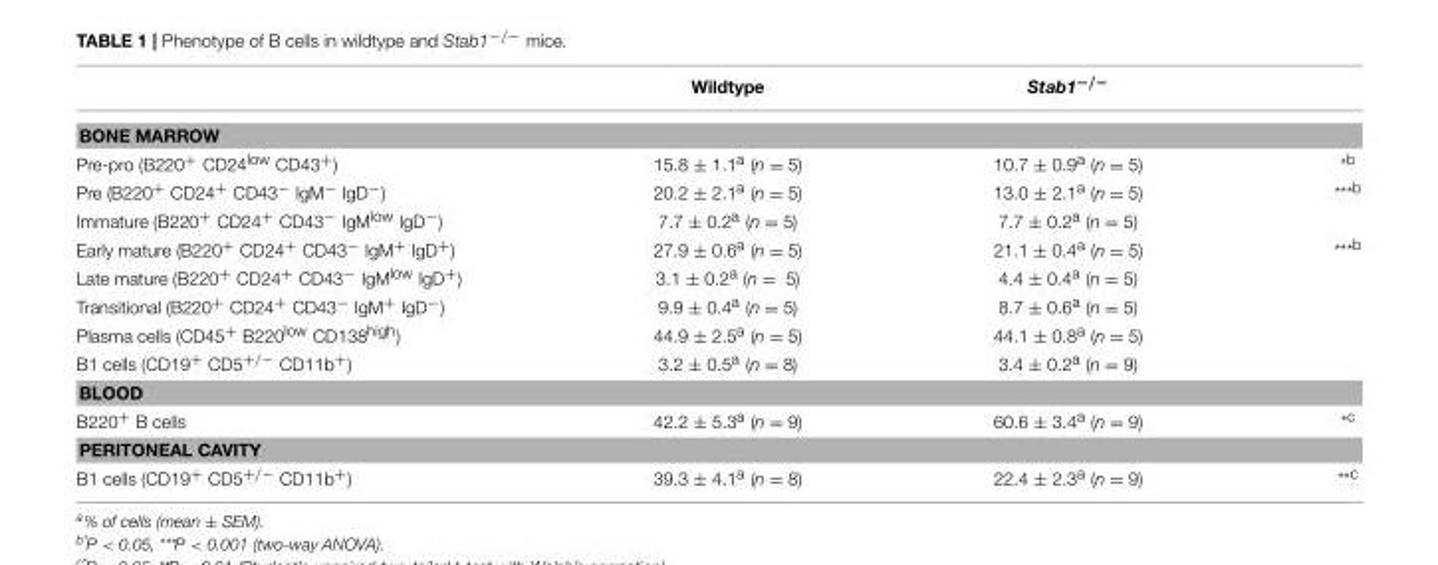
<table><thead><tr><td></td><td>Wildtype</td><td>Stab1<sup>−/−</sup></td><td></td></tr></thead><tbody><tr><td colspan="4">BONE MARROW</td></tr><tr><td>Pre-pro (B220<sup>+</sup> CD24<sup>low</sup> CD43<sup>+</sup>)</td><td>15.8 ± 1.1<sup>a</sup> (n = 5)</td><td>10.7 ± 0.9<sup>a</sup> (n = 5)</td><td><sup>*b</sup></td></tr><tr><td>Pre (B220<sup>+</sup> CD24<sup>+</sup> CD43<sup>−</sup> IgM<sup>−</sup> IgD<sup>−</sup>)</td><td>20.2 ± 2.1<sup>a</sup> (n = 5)</td><td>13.0 ± 2.1<sup>a</sup> (n = 5)</td><td><sup>***b</sup></td></tr><tr><td>Immature (B220<sup>+</sup> CD24<sup>+</sup> CD43<sup>−</sup> IgM<sup>low</sup> IgD<sup>−</sup>)</td><td>7.7 ± 0.2<sup>a</sup> (n = 5)</td><td>7.7 ± 0.2<sup>a</sup> (n = 5)</td><td></td></tr><tr><td>Early mature (B220<sup>+</sup> CD24<sup>+</sup> CD43<sup>−</sup> IgM<sup>+</sup> IgD<sup>+</sup>)</td><td>27.9 ± 0.6<sup>a</sup> (n = 5)</td><td>21.1 ± 0.4<sup>a</sup> (n = 5)</td><td><sup>***b</sup></td></tr><tr><td>Late mature (B220<sup>+</sup> CD24<sup>+</sup> CD43<sup>−</sup> IgM<sup>low</sup> IgD<sup>+</sup>)</td><td>3.1 ± 0.2<sup>a</sup> (n = 5)</td><td>4.4 ± 0.4<sup>a</sup> (n = 5)</td><td></td></tr><tr><td>Transitional (B220<sup>+</sup> CD24<sup>+</sup> CD43<sup>−</sup> IgM<sup>+</sup> IgD<sup>−</sup>)</td><td>9.9 ± 0.4<sup>a</sup> (n = 5)</td><td>8.7 ± 0.6<sup>a</sup> (n = 5)</td><td></td></tr><tr><td>Plasma cells (CD45<sup>+</sup> B220<sup>low</sup> CD138<sup>high</sup>)</td><td>44.9 ± 2.5<sup>a</sup> (n = 5)</td><td>44.1 ± 0.8<sup>a</sup> (n = 5)</td><td></td></tr><tr><td>B1 cells (CD19<sup>+</sup> CD5<sup>+/−</sup> CD11b<sup>+</sup>)</td><td>3.2 ± 0.5<sup>a</sup> (n = 8)</td><td>3.4 ± 0.2<sup>a</sup> (n = 9)</td><td></td></tr><tr><td colspan="4">BLOOD</td></tr><tr><td>B220<sup>+</sup> B cells</td><td>42.2 ± 5.3<sup>a</sup> (n = 9)</td><td>60.6 ± 3.4<sup>a</sup> (n = 9)</td><td><sup>*c</sup></td></tr><tr><td colspan="4">PERITONEAL CAVITY</td></tr><tr><td>B1 cells (CD19<sup>+</sup> CD5<sup>+/−</sup> CD11b<sup>+</sup>)</td><td>39.3 ± 4.1<sup>a</sup> (n = 8)</td><td>22.4 ± 2.3<sup>a</sup> (n = 9)</td><td><sup>**c</sup></td></tr></tbody></table>